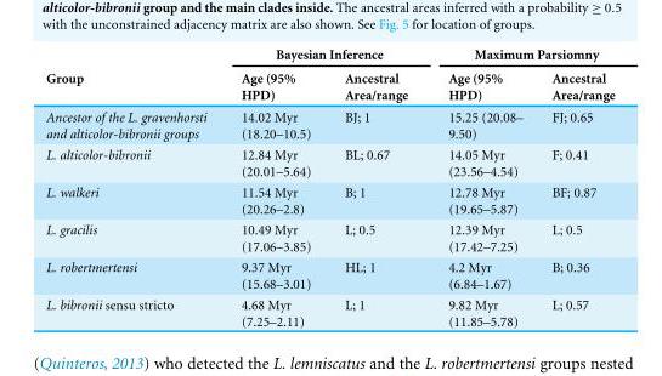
<table><thead><tr><td rowspan="2">Group</td><td colspan="2">Bayesian Inference</td><td colspan="2">Maximum Parsiomny</td></tr><tr><td>Age (95% HPD)</td><td>Ancestral Area/range</td><td>Age (95% HPD)</td><td>Ancestral Area/range</td></tr></thead><tbody><tr><td>Ancestor of the L. gravenhorsti and alticolor-bibronii groups</td><td>14.02 Myr (18.20–10.5)</td><td>BJ; 1</td><td>15.25 (20.08– 9.50)</td><td>FJ; 0.65</td></tr><tr><td>L. alticolor-bibronii</td><td>12.84 Myr (20.01–5.64)</td><td>BL; 0.67</td><td>14.05 Myr (23.56–4.54)</td><td>F; 0.41</td></tr><tr><td>L. walkeri</td><td>11.54 Myr (20.26–2.8)</td><td>B; 1</td><td>12.78 Myr (19.65–5.87)</td><td>BF; 0.87</td></tr><tr><td>L. gracilis</td><td>10.49 Myr (17.06–3.85)</td><td>L; 0.5</td><td>12.39 Myr (17.42–7.25)</td><td>L; 0.5</td></tr><tr><td>L. robertmertensi</td><td>9.37 Myr (15.68–3.01)</td><td>HL; 1</td><td>4.2 Myr (6.84–1.67)</td><td>B; 0.36</td></tr><tr><td>L. bibronii sensu stricto</td><td>4.68 Myr (7.25–2.11)</td><td>L; 1</td><td>9.82 Myr (11.85–5.78)</td><td>L; 0.57</td></tr></tbody></table>